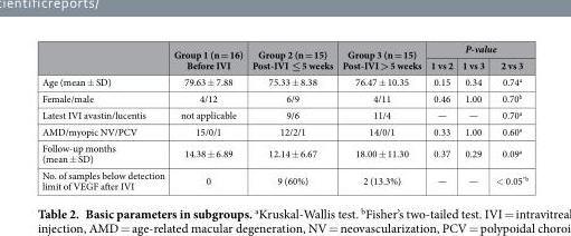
<table><thead><tr><td rowspan="2"></td><td rowspan="2">Group 1 (n = 16) Before IVI</td><td rowspan="2">Group 2 (n = 15) Post-IVI ≤ 5 weeks</td><td rowspan="2">Group 3 (n = 15) Post-IVI &gt; 5 weeks</td><td colspan="3">P-value</td></tr><tr><td>1 vs 2</td><td>1 vs 3</td><td>2 vs 3</td></tr></thead><tbody><tr><td>Age (mean ± SD)</td><td>79.63 ± 7.88</td><td>75.33 ± 8.38</td><td>76.47 ± 10.35</td><td>0.15</td><td>0.34</td><td>0.74<sup>a</sup></td></tr><tr><td>Female/male</td><td>4/12</td><td>6/9</td><td>4/11</td><td>0.46</td><td>1.00</td><td>0.70<sup>b</sup></td></tr><tr><td>Latest IVI avastin/lucentis</td><td>not applicable</td><td>9/6</td><td>11/4</td><td>—</td><td>—</td><td>0.70<sup>a</sup></td></tr><tr><td>AMD/myopic NV/PCV</td><td>15/0/1</td><td>12/2/1</td><td>14/0/1</td><td>0.33</td><td>1.00</td><td>0.60<sup>a</sup></td></tr><tr><td>Follow-up months (mean ± SD)</td><td>14.38 ± 6.89</td><td>12.14 ± 6.67</td><td>18.00 ± 11.30</td><td>0.37</td><td>0.29</td><td>0.09<sup>a</sup></td></tr><tr><td>No. of samples below detection limit of VEGF after IVI</td><td>0</td><td>9 (60%)</td><td>2 (13.3%)</td><td>—</td><td>—</td><td>&lt; 0.05<sup>*b</sup></td></tr></tbody></table>